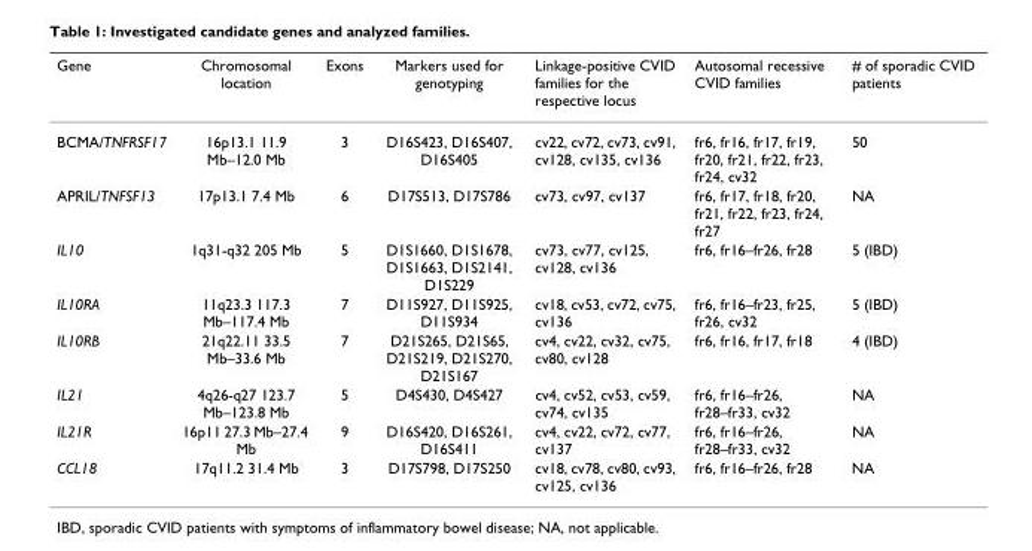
<table><thead><tr><td>Gene</td><td>Chromosomal location</td><td>Exons</td><td>Markers used for genotyping</td><td>Linkage-positive CVID families for the respective locus</td><td>Autosomal recessive CVID families</td><td># of sporadic CVID patients</td></tr></thead><tbody><tr><td>BCMA/TNFRSF17</td><td>16p13.1 11.9 Mb–12.0 Mb</td><td>3</td><td>D16S423, D16S407, D16S405</td><td>cv22, cv72, cv73, cv91, cv128, cv135, cv136</td><td>fr6, fr16, fr17, fr19, fr20, fr21, fr22, fr23, fr24, cv32</td><td>50</td></tr><tr><td>APRIL/TNFSF13</td><td>17p13.1 7.4 Mb</td><td>6</td><td>D17S513, D17S786</td><td>cv73, cv97, cv137</td><td>fr6, fr17, fr18, fr20, fr21, fr22, fr23, fr24, fr27</td><td>NA</td></tr><tr><td>IL10</td><td>1q31-q32 205 Mb</td><td>5</td><td>D1S1660, D1S1678, D1S1663, D1S2141, D1S229</td><td>cv73, cv77, cv125, cv128, cv136</td><td>fr6, fr16–fr26, fr28</td><td>5 (IBD)</td></tr><tr><td>IL10RA</td><td>11q23.3 117.3 Mb–117.4 Mb</td><td>7</td><td>D11S927, D11S925, D11S934</td><td>cv18, cv53, cv72, cv75, cv136</td><td>fr6, fr16–fr23, fr25, fr26, cv32</td><td>5 (IBD)</td></tr><tr><td>IL10RB</td><td>21q22.11 33.5 Mb–33.6 Mb</td><td>7</td><td>D21S265, D21S65, D21S219, D21S270, D21S167</td><td>cv4, cv22, cv32, cv75, cv80, cv128</td><td>fr6, fr16, fr17, fr18</td><td>4 (IBD)</td></tr><tr><td>IL21</td><td>4q26-q27 123.7 Mb–123.8 Mb</td><td>5</td><td>D4S430, D4S427</td><td>cv4, cv52, cv53, cv59, cv74, cv135</td><td>fr6, fr16–fr26, fr28–fr33, cv32</td><td>NA</td></tr><tr><td>IL21R</td><td>16p11 27.3 Mb–27.4 Mb</td><td>9</td><td>D16S420, D16S261, D16S411</td><td>cv4, cv22, cv72, cv77, cv137</td><td>fr6, fr16–fr26, fr28–fr33, cv32</td><td>NA</td></tr><tr><td>CCL18</td><td>17q11.2 31.4 Mb</td><td>3</td><td>D17S798, D17S250</td><td>cv18, cv78, cv80, cv93, cv125, cv136</td><td>fr6, fr16–fr26, fr28</td><td>NA</td></tr></tbody></table>